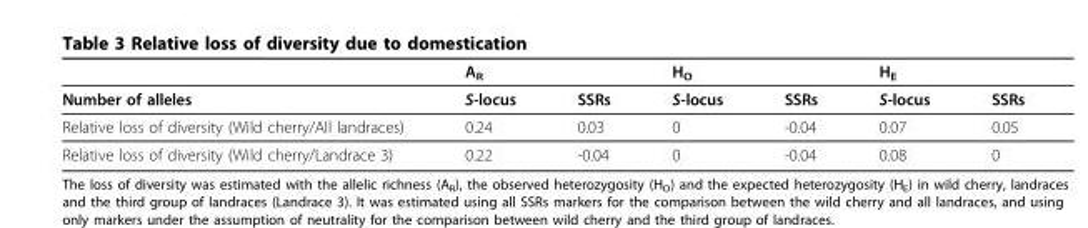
<table><thead><tr><td rowspan="2">Number of alleles</td><td colspan="2">A<sub>R</sub></td><td colspan="2">H<sub>O</sub></td><td colspan="2">H<sub>E</sub></td></tr><tr><td>S-locus</td><td>SSRs</td><td>S-locus</td><td>SSRs</td><td>S-locus</td><td>SSRs</td></tr></thead><tbody><tr><td>Relative loss of diversity (Wild cherry/All landraces)</td><td>0.24</td><td>0.03</td><td>0</td><td>-0.04</td><td>0.07</td><td>0.05</td></tr><tr><td>Relative loss of diversity (Wild cherry/Landrace 3)</td><td>0.22</td><td>-0.04</td><td>0</td><td>-0.04</td><td>0.08</td><td>0</td></tr></tbody></table>